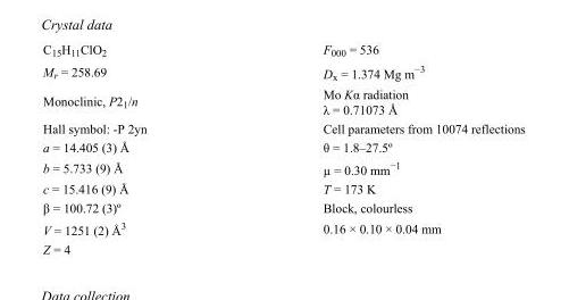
<table><tbody><tr><td>C<sub>15</sub>H<sub>11</sub>ClO<sub>2</sub></td><td>F000 = 536</td></tr><tr><td>M<sub>r</sub> = 258.69</td><td>D<sub>x</sub> = 1.374 Mg m<sup>−3</sup></td></tr><tr><td>Monoclinic, P2<sub>1</sub>/n</td><td>Mo Kα radiation λ = 0.71073 Å</td></tr><tr><td>Hall symbol: -P 2yn</td><td>Cell parameters from 10074 reflections</td></tr><tr><td>a = 14.405 (3) Å</td><td>θ = 1.8–27.5º</td></tr><tr><td>b = 5.733 (9) Å</td><td>µ = 0.30 mm<sup>−1</sup></td></tr><tr><td>c = 15.416 (9) Å</td><td>T = 173 K</td></tr><tr><td>β = 100.72 (3)º</td><td>Block, colourless</td></tr><tr><td>V = 1251 (2) Å<sup>3</sup></td><td>0.16 × 0.10 × 0.04 mm</td></tr><tr><td>Z = 4</td><td></td></tr></tbody></table>